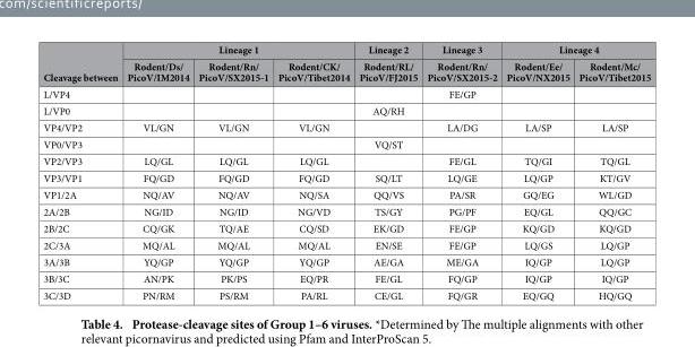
<table><thead><tr><td rowspan="2">Cleavage between</td><td colspan="3">Lineage 1</td><td rowspan="2">Lineage 2 Rodent/RL/ PicoV/FJ2015</td><td rowspan="2">Lineage 3 Rodent/Rn/ PicoV/SX2015-2</td><td colspan="2">Lineage 4</td></tr><tr><td>Rodent/Ds/ PicoV/IM2014</td><td>Rodent/Rn/ PicoV/SX2015-1</td><td>Rodent/CK/ PicoV/Tibet2014</td><td>Rodent/Ee/ PicoV/NX2015</td><td>Rodent/Mc/ PicoV/Tibet2015</td></tr></thead><tbody><tr><td>L/VP4</td><td></td><td></td><td></td><td></td><td>FE/GP</td><td></td><td></td></tr><tr><td>L/VP0</td><td></td><td></td><td></td><td>AQ/RH</td><td></td><td></td><td></td></tr><tr><td>VP4/VP2</td><td>VL/GN</td><td>VL/GN</td><td>VL/GN</td><td></td><td>LA/DG</td><td>LA/SP</td><td>LA/SP</td></tr><tr><td>VP0/VP3</td><td></td><td></td><td></td><td>VQ/ST</td><td></td><td></td><td></td></tr><tr><td>VP2/VP3</td><td>LQ/GL</td><td>LQ/GL</td><td>LQ/GL</td><td></td><td>FE/GL</td><td>TQ/GI</td><td>TQ/GL</td></tr><tr><td>VP3/VP1</td><td>FQ/GD</td><td>FQ/GD</td><td>FQ/GD</td><td>SQ/LT</td><td>LQ/GE</td><td>LQ/GP</td><td>KT/GV</td></tr><tr><td>VP1/2A</td><td>NQ/AV</td><td>NQ/AV</td><td>NQ/SA</td><td>QQ/VS</td><td>PA/SR</td><td>GQ/EG</td><td>WL/GD</td></tr><tr><td>2A/2B</td><td>NG/ID</td><td>NG/ID</td><td>NG/VD</td><td>TS/GY</td><td>PG/PF</td><td>EQ/GL</td><td>QQ/GC</td></tr><tr><td>2B/2C</td><td>CQ/GK</td><td>TQ/AE</td><td>CQ/SD</td><td>EK/GD</td><td>FE/GP</td><td>KQ/GD</td><td>KQ/GD</td></tr><tr><td>2C/3A</td><td>MQ/AL</td><td>MQ/AL</td><td>MQ/AL</td><td>EN/SE</td><td>FE/GP</td><td>LQ/GS</td><td>LQ/GP</td></tr><tr><td>3A/3B</td><td>YQ/GP</td><td>YQ/GP</td><td>YQ/GP</td><td>AE/GA</td><td>ME/GA</td><td>IQ/GP</td><td>LQ/GP</td></tr><tr><td>3B/3C</td><td>AN/PK</td><td>PK/PS</td><td>EQ/PR</td><td>FE/GL</td><td>FQ/GP</td><td>IQ/GP</td><td>IQ/GP</td></tr><tr><td>3C/3D</td><td>PN/RM</td><td>PS/RM</td><td>PA/RL</td><td>CE/GL</td><td>FQ/GR</td><td>EQ/GQ</td><td>HQ/GQ</td></tr></tbody></table>